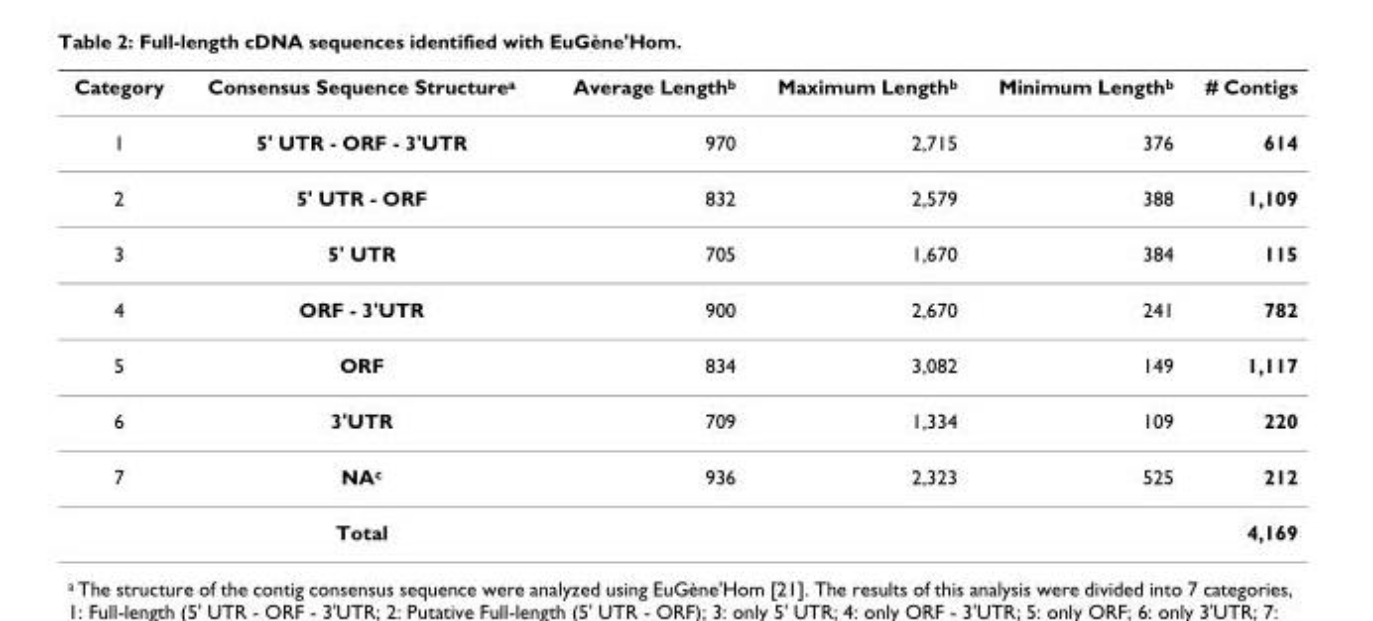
<table><thead><tr><td>Category</td><td>Consensus Sequence Structure<sup>a</sup></td><td>Average Length<sup>b</sup></td><td>Maximum Length<sup>b</sup></td><td>Minimum Length<sup>b</sup></td><td># Contigs</td></tr></thead><tbody><tr><td>1</td><td>5&#x27; UTR - ORF - 3&#x27;UTR</td><td>970</td><td>2,715</td><td>376</td><td>614</td></tr><tr><td>2</td><td>5&#x27; UTR - ORF</td><td>832</td><td>2,579</td><td>388</td><td>1,109</td></tr><tr><td>3</td><td>5&#x27; UTR</td><td>705</td><td>1,670</td><td>384</td><td>115</td></tr><tr><td>4</td><td>ORF - 3&#x27;UTR</td><td>900</td><td>2,670</td><td>241</td><td>782</td></tr><tr><td>5</td><td>ORF</td><td>834</td><td>3,082</td><td>149</td><td>1,117</td></tr><tr><td>6</td><td>3&#x27;UTR</td><td>709</td><td>1,334</td><td>109</td><td>220</td></tr><tr><td rowspan="2">7</td><td>NA<sup>c</sup></td><td>936</td><td>2,323</td><td>525</td><td>212</td></tr><tr><td>Total</td><td></td><td></td><td></td><td>4,169</td></tr></tbody></table>